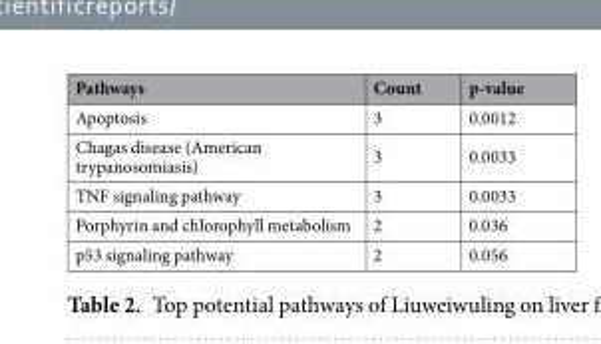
<table><thead><tr><td>Pathways</td><td>Count</td><td>p-value</td></tr></thead><tbody><tr><td>Apoptosis</td><td>3</td><td>0.0012</td></tr><tr><td>Chagas disease (American trypanosomiasis)</td><td>3</td><td>0.0033</td></tr><tr><td>TNF signaling pathway</td><td>3</td><td>0.0033</td></tr><tr><td>Porphyrin and chlorophyll metabolism</td><td>2</td><td>0.036</td></tr><tr><td>p53 signaling pathway</td><td>2</td><td>0.056</td></tr></tbody></table>